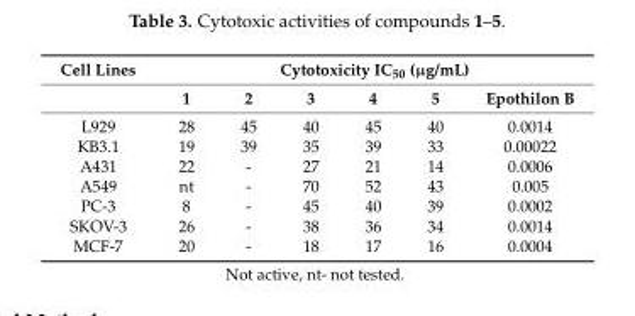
<table><thead><tr><td rowspan="2">Cell Lines</td><td colspan="6">Cytotoxicity IC<sub>50</sub> (µg/mL)</td></tr><tr><td>1</td><td>2</td><td>3</td><td>4</td><td>5</td><td>Epothilon B</td></tr></thead><tbody><tr><td>L929</td><td>28</td><td>45</td><td>40</td><td>45</td><td>40</td><td>0.0014</td></tr><tr><td>KB3.1</td><td>19</td><td>39</td><td>35</td><td>39</td><td>33</td><td>0.00022</td></tr><tr><td>A431</td><td>22</td><td>-</td><td>27</td><td>21</td><td>14</td><td>0.0006</td></tr><tr><td>A549</td><td>nt</td><td>-</td><td>70</td><td>52</td><td>43</td><td>0.005</td></tr><tr><td>PC-3</td><td>8</td><td>-</td><td>45</td><td>40</td><td>39</td><td>0.0002</td></tr><tr><td>SKOV-3</td><td>26</td><td>-</td><td>38</td><td>36</td><td>34</td><td>0.0014</td></tr><tr><td>MCF-7</td><td>20</td><td>-</td><td>18</td><td>17</td><td>16</td><td>0.0004</td></tr></tbody></table>